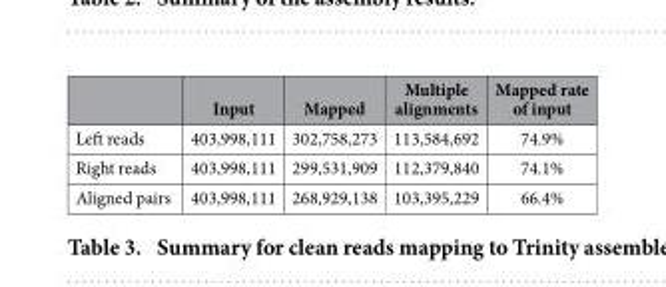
<table><thead><tr><td></td><td>Input</td><td>Mapped</td><td>Multiple alignments</td><td>Mapped rate of input</td></tr></thead><tbody><tr><td>Left reads</td><td>403,998,111</td><td>302,758,273</td><td>113,584,692</td><td>74.9%</td></tr><tr><td>Right reads</td><td>403,998,111</td><td>299,531,909</td><td>112,379,840</td><td>74.1%</td></tr><tr><td>Aligned pairs</td><td>403,998,111</td><td>268,929,138</td><td>103,395,229</td><td>66.4%</td></tr></tbody></table>